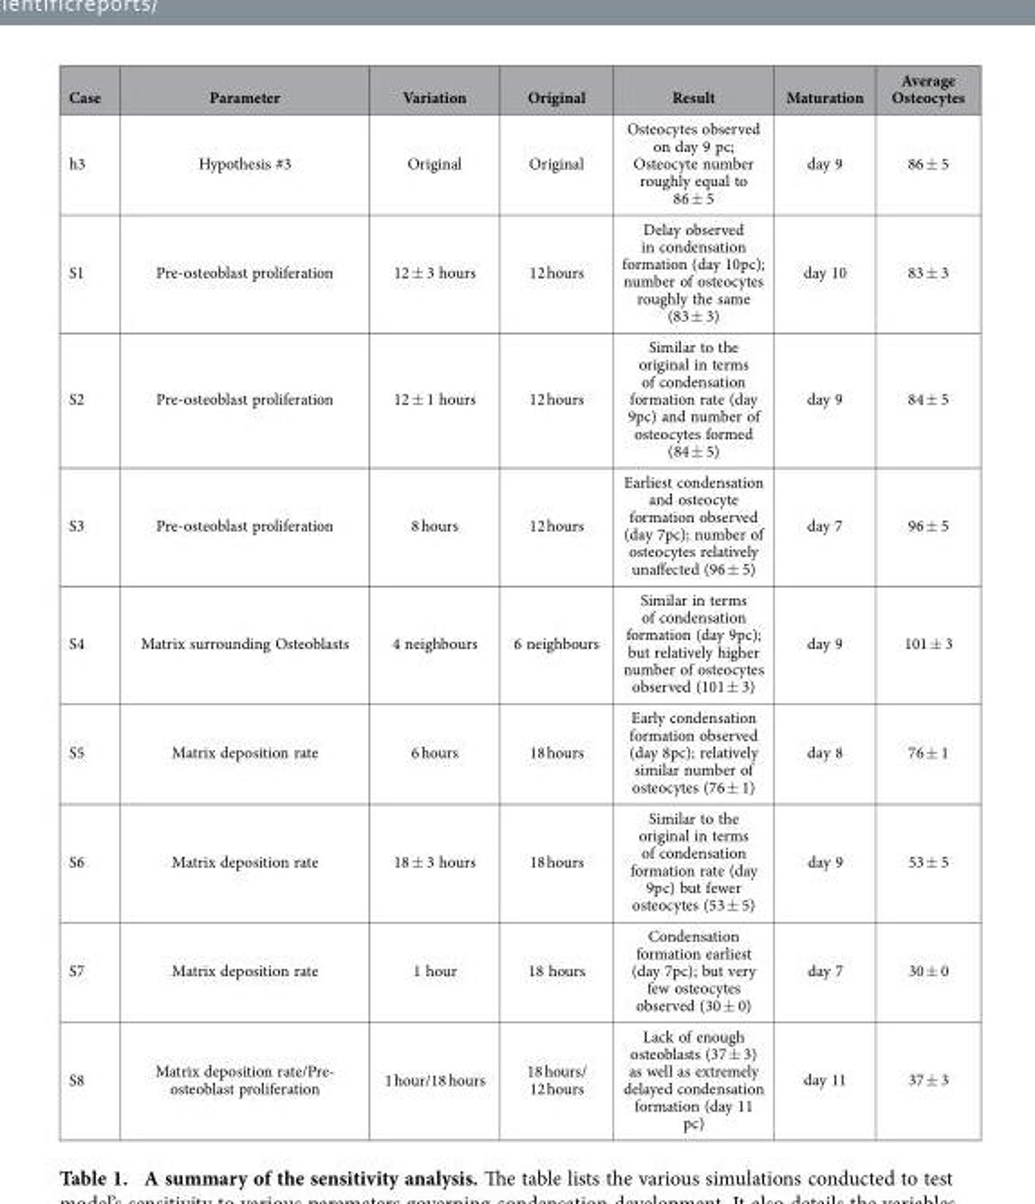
<table><thead><tr><td>Case</td><td>Parameter</td><td>Variation</td><td>Original</td><td>Result</td><td>Maturation</td><td>Average Osteocytes</td></tr></thead><tbody><tr><td>h3</td><td>Hypothesis #3</td><td>Original</td><td>Original</td><td>Osteocytes observed on day 9 pc; Osteocyte number roughly equal to 86 ± 5</td><td>day 9</td><td>86 ± 5</td></tr><tr><td>S1</td><td>Pre-osteoblast proliferation</td><td>12 ± 3 hours</td><td>12 hours</td><td>Delay observed in condensation formation (day 10pc); number of osteocytes roughly the same (83 ± 3)</td><td>day 10</td><td>83 ± 3</td></tr><tr><td>S2</td><td>Pre-osteoblast proliferation</td><td>12 ± 1 hours</td><td>12 hours</td><td>Similar to the original in terms of condensation formation rate (day 9pc) and number of osteocytes formed (84 ± 5)</td><td>day 9</td><td>84 ± 5</td></tr><tr><td>S3</td><td>Pre-osteoblast proliferation</td><td>8 hours</td><td>12 hours</td><td>Earliest condensation and osteocyte formation observed (day 7pc); number of osteocytes relatively unaffected (96 ± 5)</td><td>day 7</td><td>96 ± 5</td></tr><tr><td>S4</td><td>Matrix surrounding Osteoblasts</td><td>4 neighbours</td><td>6 neighbours</td><td>Similar in terms of condensation formation (day 9pc); but relatively higher number of osteocytes observed (101 ± 3)</td><td>day 9</td><td>101 ± 3</td></tr><tr><td>S5</td><td>Matrix deposition rate</td><td>6 hours</td><td>18 hours</td><td>Early condensation formation observed (day 8pc); relatively similar number of osteocytes (76 ± 1)</td><td>day 8</td><td>76 ± 1</td></tr><tr><td>S6</td><td>Matrix deposition rate</td><td>18 ± 3 hours</td><td>18 hours</td><td>Similar to the original in terms of condensation formation rate (day 9pc) but fewer osteocytes (53 ± 5)</td><td>day 9</td><td>53 ± 5</td></tr><tr><td>S7</td><td>Matrix deposition rate</td><td>1 hour</td><td>18 hours</td><td>Condensation formation earliest (day 7pc); but very few osteocytes observed (30 ± 0)</td><td>day 7</td><td>30 ± 0</td></tr><tr><td>S8</td><td>Matrix deposition rate/Pre- osteoblast proliferation</td><td>1 hour/18 hours</td><td>18 hours/ 12 hours</td><td>Lack of enough osteoblasts (37 ± 3) as well as extremely delayed condensation formation (day 11 pc)</td><td>day 11</td><td>37 ± 3</td></tr></tbody></table>